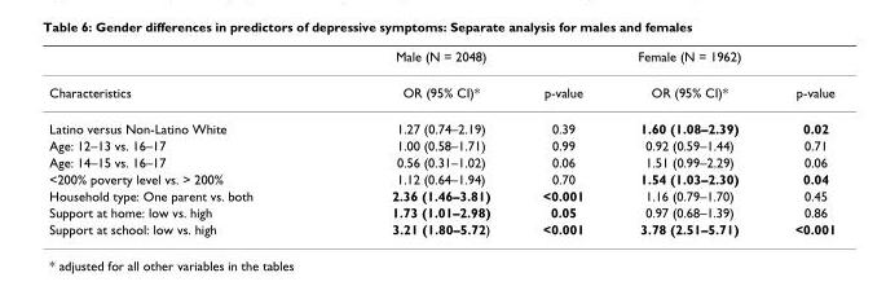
<table><thead><tr><td></td><td>Male (N = 2048)</td><td></td><td>Female (N = 1962)</td><td></td></tr></thead><tbody><tr><td>Characteristics</td><td>OR (95% CI)*</td><td>p-value</td><td>OR (95% CI)*</td><td>p-value</td></tr><tr><td>Latino versus Non-Latino White</td><td>1.27 (0.74–2.19)</td><td>0.39</td><td>1.60 (1.08–2.39)</td><td>0.02</td></tr><tr><td>Age: 12–13 vs. 16–17</td><td>1.00 (0.58–1.71)</td><td>0.99</td><td>0.92 (0.59–1.44)</td><td>0.71</td></tr><tr><td>Age: 14–15 vs. 16–17</td><td>0.56 (0.31–1.02)</td><td>0.06</td><td>1.51 (0.99–2.29)</td><td>0.06</td></tr><tr><td>&lt;200% poverty level vs. &gt; 200%</td><td>1.12 (0.64–1.94)</td><td>0.70</td><td>1.54 (1.03–2.30)</td><td>0.04</td></tr><tr><td>Household type: One parent vs. both</td><td>2.36 (1.46–3.81)</td><td>&lt;0.001</td><td>1.16 (0.79–1.70)</td><td>0.45</td></tr><tr><td>Support at home: low vs. high</td><td>1.73 (1.01–2.98)</td><td>0.05</td><td>0.97 (0.68–1.39)</td><td>0.86</td></tr><tr><td>Support at school: low vs. high</td><td>3.21 (1.80–5.72)</td><td>&lt;0.001</td><td>3.78 (2.51–5.71)</td><td>&lt;0.001</td></tr></tbody></table>